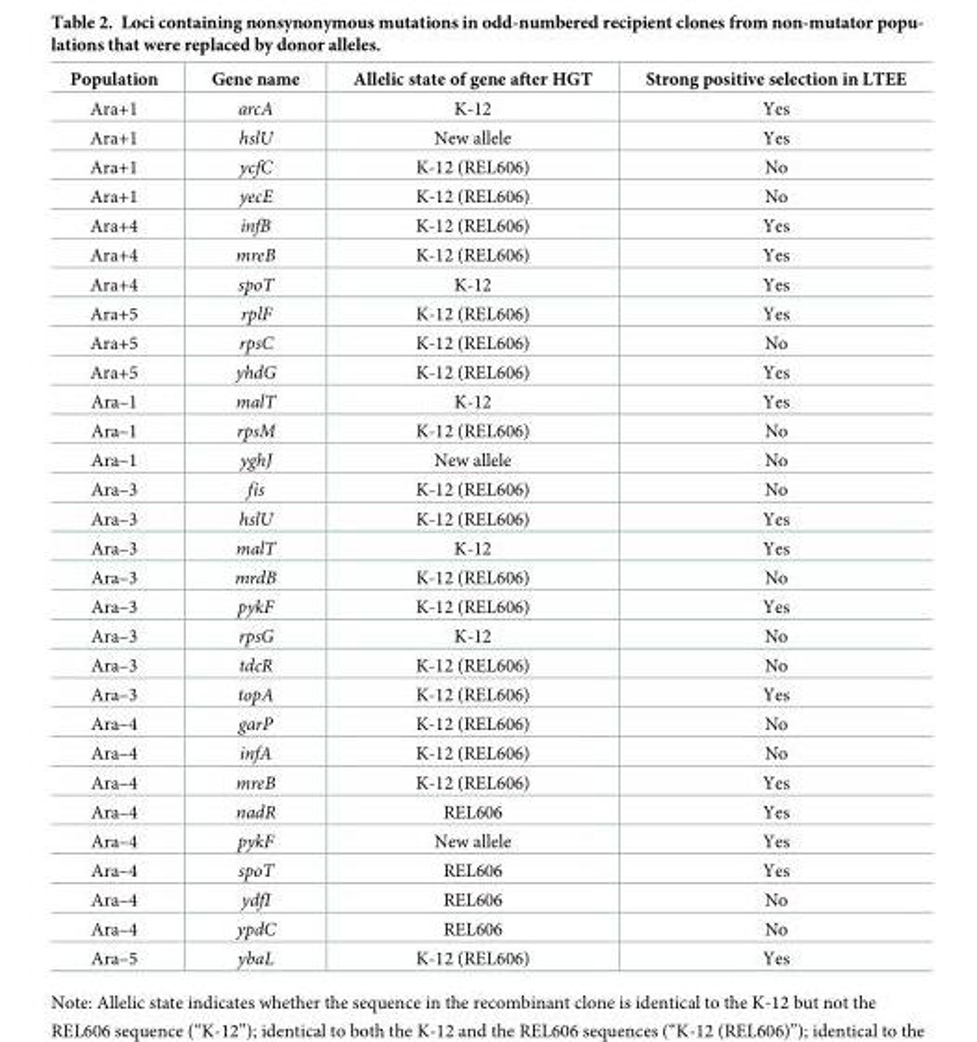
<table><thead><tr><td>Population</td><td>Gene name</td><td>Allelic state of gene after HGT</td><td>Strong positive selection in LTEE</td></tr></thead><tbody><tr><td>Ara+1</td><td>arcA</td><td>K-12</td><td>Yes</td></tr><tr><td>Ara+1</td><td>hslU</td><td>New allele</td><td>Yes</td></tr><tr><td>Ara+1</td><td>ycfC</td><td>K-12 (REL606)</td><td>No</td></tr><tr><td>Ara+1</td><td>yecE</td><td>K-12 (REL606)</td><td>No</td></tr><tr><td>Ara+4</td><td>infB</td><td>K-12 (REL606)</td><td>Yes</td></tr><tr><td>Ara+4</td><td>mreB</td><td>K-12 (REL606)</td><td>Yes</td></tr><tr><td>Ara+4</td><td>spoT</td><td>K-12</td><td>Yes</td></tr><tr><td>Ara+5</td><td>rplF</td><td>K-12 (REL606)</td><td>Yes</td></tr><tr><td>Ara+5</td><td>rpsC</td><td>K-12 (REL606)</td><td>No</td></tr><tr><td>Ara+5</td><td>yhdG</td><td>K-12 (REL606)</td><td>Yes</td></tr><tr><td>Ara–1</td><td>malT</td><td>K-12</td><td>Yes</td></tr><tr><td>Ara–1</td><td>rpsM</td><td>K-12 (REL606)</td><td>No</td></tr><tr><td>Ara–1</td><td>yghJ</td><td>New allele</td><td>No</td></tr><tr><td>Ara–3</td><td>fis</td><td>K-12 (REL606)</td><td>No</td></tr><tr><td>Ara–3</td><td>hslU</td><td>K-12 (REL606)</td><td>Yes</td></tr><tr><td>Ara–3</td><td>malT</td><td>K-12</td><td>Yes</td></tr><tr><td>Ara–3</td><td>mrdB</td><td>K-12 (REL606)</td><td>No</td></tr><tr><td>Ara–3</td><td>pykF</td><td>K-12 (REL606)</td><td>Yes</td></tr><tr><td>Ara–3</td><td>rpsG</td><td>K-12</td><td>No</td></tr><tr><td>Ara–3</td><td>tdcR</td><td>K-12 (REL606)</td><td>No</td></tr><tr><td>Ara–3</td><td>topA</td><td>K-12 (REL606)</td><td>Yes</td></tr><tr><td>Ara–4</td><td>garP</td><td>K-12 (REL606)</td><td>No</td></tr><tr><td>Ara–4</td><td>infA</td><td>K-12 (REL606)</td><td>No</td></tr><tr><td>Ara–4</td><td>mreB</td><td>K-12 (REL606)</td><td>Yes</td></tr><tr><td>Ara–4</td><td>nadR</td><td>REL606</td><td>Yes</td></tr><tr><td>Ara–4</td><td>pykF</td><td>New allele</td><td>Yes</td></tr><tr><td>Ara–4</td><td>spoT</td><td>REL606</td><td>Yes</td></tr><tr><td>Ara–4</td><td>ydfI</td><td>REL606</td><td>No</td></tr><tr><td>Ara–4</td><td>ypdC</td><td>REL606</td><td>No</td></tr><tr><td>Ara–5</td><td>ybaL</td><td>K-12 (REL606)</td><td>Yes</td></tr></tbody></table>